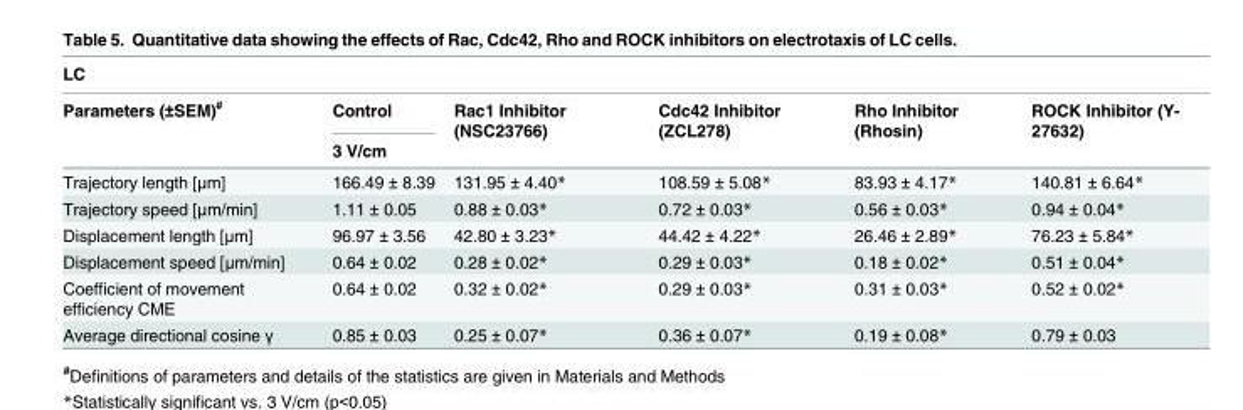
<table><thead><tr><td colspan="6">LC</td></tr><tr><td rowspan="2">Parameters (±SEM)<sup>#</sup></td><td>Control</td><td>Rac1 Inhibitor (NSC23766)</td><td>Cdc42 Inhibitor (ZCL278)</td><td>Rho Inhibitor (Rhosin)</td><td>ROCK Inhibitor (Y- 27632)</td></tr><tr><td colspan="5">3 V/cm</td></tr></thead><tbody><tr><td>Trajectory length [μm]</td><td>166.49 ± 8.39</td><td>131.95 ± 4.40*</td><td>108.59 ± 5.08*</td><td>83.93 ± 4.17*</td><td>140.81 ± 6.64*</td></tr><tr><td>Trajectory speed [μm/min]</td><td>1.11 ± 0.05</td><td>0.88 ± 0.03*</td><td>0.72 ± 0.03*</td><td>0.56 ± 0.03*</td><td>0.94 ± 0.04*</td></tr><tr><td>Displacement length [μm]</td><td>96.97 ± 3.56</td><td>42.80 ± 3.23*</td><td>44.42 ± 4.22*</td><td>26.46 ± 2.89*</td><td>76.23 ± 5.84*</td></tr><tr><td>Displacement speed [μm/min]</td><td>0.64 ± 0.02</td><td>0.28 ± 0.02*</td><td>0.29 ± 0.03*</td><td>0.18 ± 0.02*</td><td>0.51 ± 0.04*</td></tr><tr><td>Coefficient of movement efficiency CME</td><td>0.64 ± 0.02</td><td>0.32 ± 0.02*</td><td>0.29 ± 0.03*</td><td>0.31 ± 0.03*</td><td>0.52 ± 0.02*</td></tr><tr><td>Average directional cosine γ</td><td>0.85 ± 0.03</td><td>0.25 ± 0.07*</td><td>0.36 ± 0.07*</td><td>0.19 ± 0.08*</td><td>0.79 ± 0.03</td></tr></tbody></table>